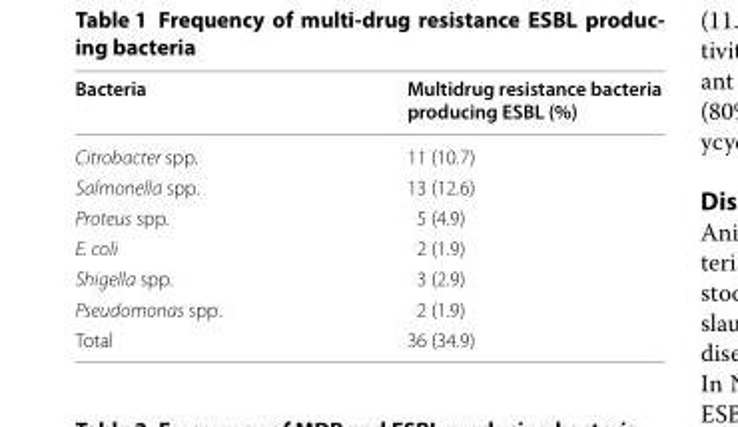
<table><thead><tr><td>Bacteria</td><td>Multidrug resistance bacteria producing ESBL (%)</td></tr></thead><tbody><tr><td>Citrobacter spp.</td><td>11 (10.7)</td></tr><tr><td>Salmonella spp.</td><td>13 (12.6)</td></tr><tr><td>Proteus spp.</td><td>5 (4.9)</td></tr><tr><td>E. coli</td><td>2 (1.9)</td></tr><tr><td>Shigella spp.</td><td>3 (2.9)</td></tr><tr><td>Pseudomonas spp.</td><td>2 (1.9)</td></tr><tr><td>Total</td><td>36 (34.9)</td></tr></tbody></table>